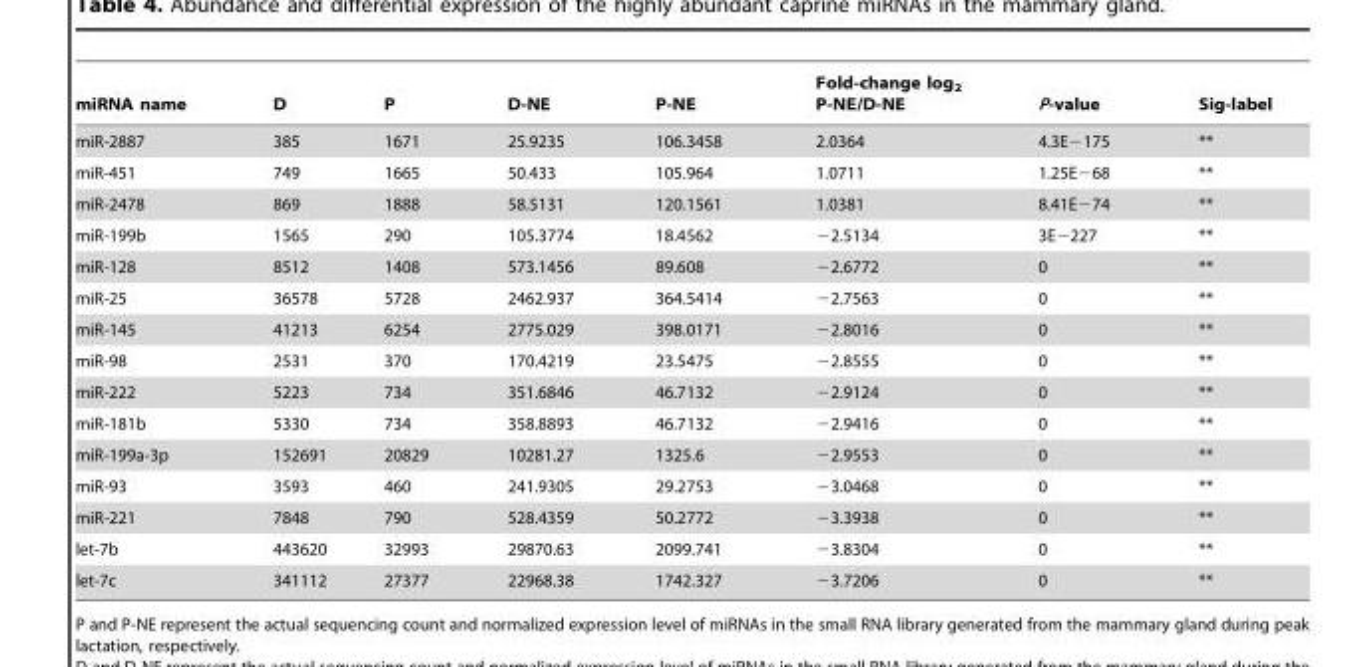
<table><thead><tr><td>miRNA name</td><td>D</td><td>P</td><td>D-NE</td><td>P-NE</td><td>Fold-change log<sub>2</sub> P-NE/D-NE</td><td>P-value</td><td>Sig-label</td></tr></thead><tbody><tr><td>miR-2887</td><td>385</td><td>1671</td><td>25.9235</td><td>106.3458</td><td>2.0364</td><td>4.3E−175</td><td>**</td></tr><tr><td>miR-451</td><td>749</td><td>1665</td><td>50.433</td><td>105.964</td><td>1.0711</td><td>1.25E−68</td><td>**</td></tr><tr><td>miR-2478</td><td>869</td><td>1888</td><td>58.5131</td><td>120.1561</td><td>1.0381</td><td>8.41E−74</td><td>**</td></tr><tr><td>miR-199b</td><td>1565</td><td>290</td><td>105.3774</td><td>18.4562</td><td>−2.5134</td><td>3E−227</td><td>**</td></tr><tr><td>miR-128</td><td>8512</td><td>1408</td><td>573.1456</td><td>89.608</td><td>−2.6772</td><td>0</td><td>**</td></tr><tr><td>miR-25</td><td>36578</td><td>5728</td><td>2462.937</td><td>364.5414</td><td>−2.7563</td><td>0</td><td>**</td></tr><tr><td>miR-145</td><td>41213</td><td>6254</td><td>2775.029</td><td>398.0171</td><td>−2.8016</td><td>0</td><td>**</td></tr><tr><td>miR-98</td><td>2531</td><td>370</td><td>170.4219</td><td>23.5475</td><td>−2.8555</td><td>0</td><td>**</td></tr><tr><td>miR-222</td><td>5223</td><td>734</td><td>351.6846</td><td>46.7132</td><td>−2.9124</td><td>0</td><td>**</td></tr><tr><td>miR-181b</td><td>5330</td><td>734</td><td>358.8893</td><td>46.7132</td><td>−2.9416</td><td>0</td><td>**</td></tr><tr><td>miR-199a-3p</td><td>152691</td><td>20829</td><td>10281.27</td><td>1325.6</td><td>−2.9553</td><td>0</td><td>**</td></tr><tr><td>miR-93</td><td>3593</td><td>460</td><td>241.9305</td><td>29.2753</td><td>−3.0468</td><td>0</td><td>**</td></tr><tr><td>miR-221</td><td>7848</td><td>790</td><td>528.4359</td><td>50.2772</td><td>−3.3938</td><td>0</td><td>**</td></tr><tr><td>let-7b</td><td>443620</td><td>32993</td><td>29870.63</td><td>2099.741</td><td>−3.8304</td><td>0</td><td>**</td></tr><tr><td>let-7c</td><td>341112</td><td>27377</td><td>22968.38</td><td>1742.327</td><td>−3.7206</td><td>0</td><td>**</td></tr></tbody></table>